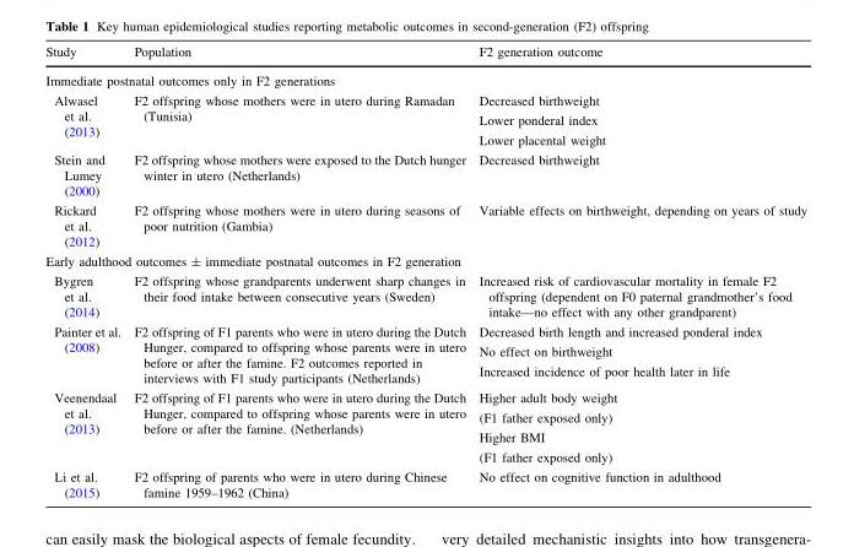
<table><thead><tr><td>Study</td><td>Population</td><td>F2 generation outcome</td></tr></thead><tbody><tr><td colspan="3">Immediate postnatal outcomes only in F2 generations</td></tr><tr><td>Alwasel et al. (2013)</td><td>F2 offspring whose mothers were in utero during Ramadan (Tunisia)</td><td>Decreased birthweight Lower ponderal index Lower placental weight</td></tr><tr><td>Stein and Lumey (2000)</td><td>F2 offspring whose mothers were exposed to the Dutch hunger winter in utero (Netherlands)</td><td>Decreased birthweight</td></tr><tr><td>Rickard et al. (2012)</td><td>F2 offspring whose mothers were in utero during seasons of poor nutrition (Gambia)</td><td>Variable effects on birthweight, depending on years of study</td></tr><tr><td colspan="3">Early adulthood outcomes ± immediate postnatal outcomes in F2 generation</td></tr><tr><td>Bygren et al. (2014)</td><td>F2 offspring whose grandparents underwent sharp changes in their food intake between consecutive years (Sweden)</td><td>Increased risk of cardiovascular mortality in female F2 offspring (dependent on F0 paternal grandmother’s food intake—no effect with any other grandparent)</td></tr><tr><td>Painter et al. (2008)</td><td>F2 offspring of F1 parents who were in utero during the Dutch Hunger, compared to offspring whose parents were in utero before or after the famine. F2 outcomes reported in interviews with F1 study participants (Netherlands)</td><td>Decreased birth length and increased ponderal index No effect on birthweight Increased incidence of poor health later in life</td></tr><tr><td>Veenendaal et al. (2013)</td><td>F2 offspring of F1 parents who were in utero during the Dutch Hunger, compared to offspring whose parents were in utero before or after the famine. (Netherlands)</td><td>Higher adult body weight (F1 father exposed only) Higher BMI (F1 father exposed only)</td></tr><tr><td>Li et al. (2015)</td><td>F2 offspring of parents who were in utero during Chinese famine 1959–1962 (China)</td><td>No effect on cognitive function in adulthood</td></tr></tbody></table>